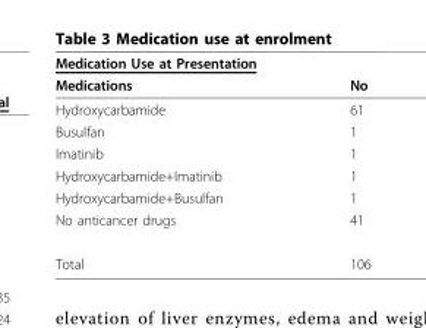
<table><thead><tr><td colspan="2">Medication Use at Presentation</td></tr><tr><td>Medications</td><td>No</td></tr></thead><tbody><tr><td>Hydroxycarbamide</td><td>61</td></tr><tr><td>Busulfan</td><td>1</td></tr><tr><td>Imatinib</td><td>1</td></tr><tr><td>Hydroxycarbamide+Imatinib</td><td>1</td></tr><tr><td>Hydroxycarbamide+Busulfan</td><td>1</td></tr><tr><td>No anticancer drugs</td><td>41</td></tr><tr><td>Total</td><td>106</td></tr></tbody></table>